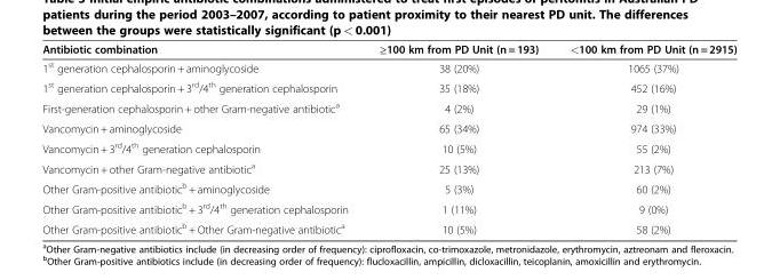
<table><thead><tr><td>Antibiotic combination</td><td>≥100 km from PD Unit (n = 193)</td><td>&lt;100 km from PD Unit (n = 2915)</td></tr></thead><tbody><tr><td>1<sup>st</sup> generation cephalosporin + aminoglycoside</td><td>38 (20%)</td><td>1065 (37%)</td></tr><tr><td>1<sup>st</sup> generation cephalosporin + 3<sup>rd</sup>/4<sup>th</sup> generation cephalosporin</td><td>35 (18%)</td><td>452 (16%)</td></tr><tr><td>First-generation cephalosporin + other Gram-negative antibiotic<sup>a</sup></td><td>4 (2%)</td><td>29 (1%)</td></tr><tr><td>Vancomycin + aminoglycoside</td><td>65 (34%)</td><td>974 (33%)</td></tr><tr><td>Vancomycin + 3<sup>rd</sup>/4<sup>th</sup> generation cephalosporin</td><td>10 (5%)</td><td>55 (2%)</td></tr><tr><td>Vancomycin + other Gram-negative antibiotic<sup>a</sup></td><td>25 (13%)</td><td>213 (7%)</td></tr><tr><td>Other Gram-positive antibiotic<sup>b</sup> + aminoglycoside</td><td>5 (3%)</td><td>60 (2%)</td></tr><tr><td>Other Gram-positive antibiotic<sup>b</sup> + 3<sup>rd</sup>/4<sup>th</sup> generation cephalosporin</td><td>1 (11%)</td><td>9 (0%)</td></tr><tr><td>Other Gram-positive antibiotic<sup>b</sup> + Other Gram-negative antibiotic<sup>a</sup></td><td>10 (5%)</td><td>58 (2%)</td></tr></tbody></table>